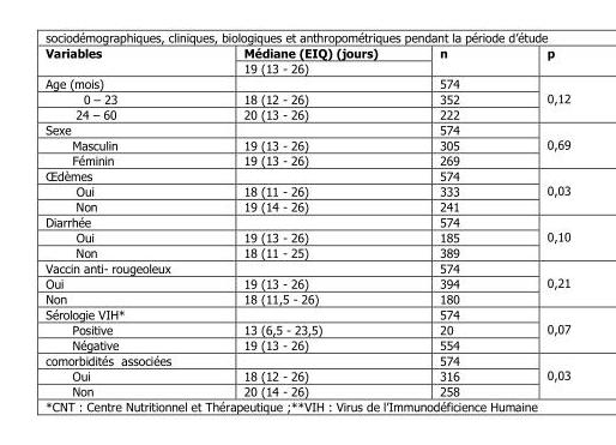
<table><thead><tr><td rowspan="2">Variables</td><td rowspan="2">Médiane (EIQ) (jours) 19 (13 - 26)</td><td rowspan="2">n</td><td rowspan="2">p</td></tr><tr></tr></thead><tbody><tr><td>Age (mois)</td><td></td><td>574</td><td rowspan="3">0,12</td></tr><tr><td>0 Ŕ 23</td><td>18 (12 - 26)</td><td>352</td></tr><tr><td>24 Ŕ 60</td><td>20 (13 - 26)</td><td>222</td></tr><tr><td>Sexe</td><td></td><td>574</td><td rowspan="3">0,69</td></tr><tr><td>Masculin</td><td>19 (13 - 26)</td><td>305</td></tr><tr><td>Féminin</td><td>19 (13 - 26)</td><td>269</td></tr><tr><td>Œdèmes</td><td></td><td>574</td><td rowspan="3">0,03</td></tr><tr><td>Oui</td><td>18 (11 - 26)</td><td>333</td></tr><tr><td>Non</td><td>19 (14 - 26)</td><td>241</td></tr><tr><td>Diarrhée</td><td></td><td>574</td><td rowspan="3">0,10</td></tr><tr><td>Oui</td><td>19 (13 - 26)</td><td>185</td></tr><tr><td>Non</td><td>18 (11 - 25)</td><td>389</td></tr><tr><td>Vaccin anti- rougeoleux</td><td></td><td>574</td><td rowspan="3">0,21</td></tr><tr><td>Oui</td><td>19 (13 - 26)</td><td>394</td></tr><tr><td>Non</td><td>18 (11,5 - 26)</td><td>180</td></tr><tr><td>Sérologie VIH*</td><td></td><td>574</td><td rowspan="3">0,07</td></tr><tr><td>Positive</td><td>13 (6,5 - 23,5)</td><td>20</td></tr><tr><td>Négative</td><td>19 (13 - 26)</td><td>554</td></tr><tr><td>comorbidités associées</td><td></td><td>574</td><td rowspan="3">0,03</td></tr><tr><td>Oui</td><td>18 (12 - 26)</td><td>316</td></tr><tr><td>Non</td><td>20 (14 - 26)</td><td>258</td></tr></tbody></table>